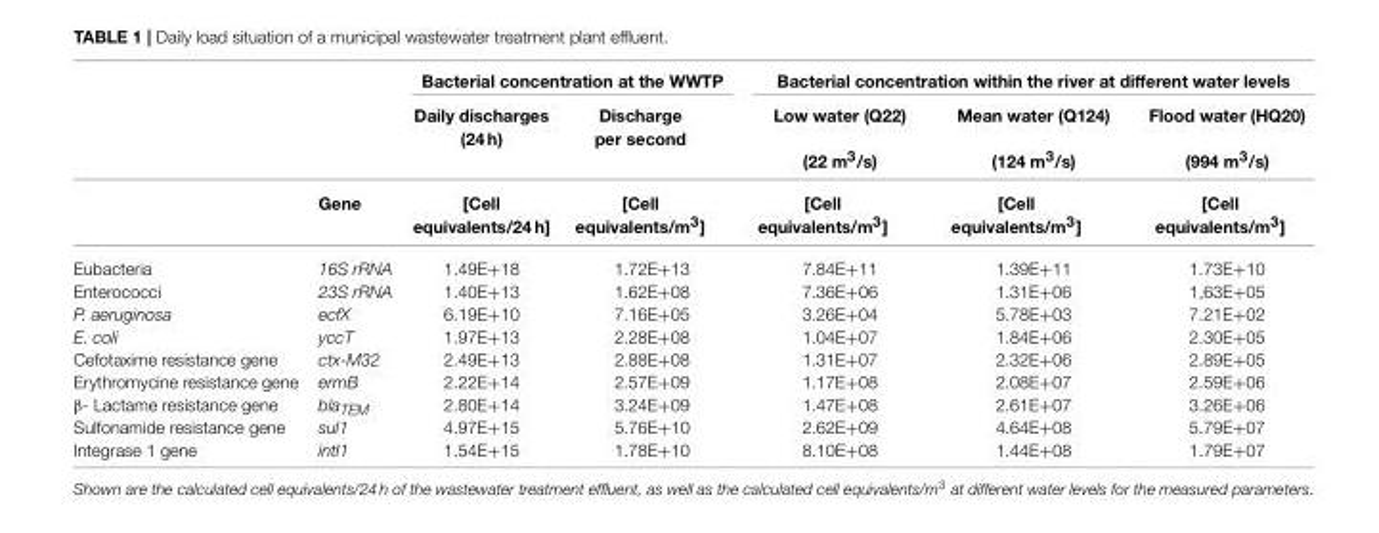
<table><thead><tr><td rowspan="3"></td><td rowspan="3"></td><td colspan="2">Bacterial concentration at the WWTP</td><td colspan="3">Bacterial concentration within the river at different water levels</td></tr><tr><td rowspan="2">Daily discharges (24 h)</td><td rowspan="2">Discharge per second</td><td rowspan="2">Low water (Q22) (22 m<sup>3</sup>/s)</td><td rowspan="2">Mean water (Q124) (124 m<sup>3</sup>/s)</td><td rowspan="2">Flood water (HQ20) (994 m<sup>3</sup>/s)</td></tr><tr></tr></thead><tbody><tr><td></td><td>Gene</td><td>[Cell equivalents/24 h]</td><td>[Cell equivalents/m<sup>3</sup>]</td><td>[Cell equivalents/m<sup>3</sup>]</td><td>[Cell equivalents/m<sup>3</sup>]</td><td>[Cell equivalents/m<sup>3</sup>]</td></tr><tr><td>Eubacteria</td><td>16S rRNA</td><td>1.49E+18</td><td>1.72E+13</td><td>7.84E+11</td><td>1.39E+11</td><td>1.73E+10</td></tr><tr><td>Enterococci</td><td>23S rRNA</td><td>1.40E+13</td><td>1.62E+08</td><td>7.36E+06</td><td>1.31E+06</td><td>1,63E+05</td></tr><tr><td>P. aeruginosa</td><td>ecfX</td><td>6.19E+10</td><td>7.16E+05</td><td>3.26E+04</td><td>5.78E+03</td><td>7.21E+02</td></tr><tr><td>E. coli</td><td>yccT</td><td>1.97E+13</td><td>2.28E+08</td><td>1.04E+07</td><td>1.84E+06</td><td>2.30E+05</td></tr><tr><td>Cefotaxime resistance gene</td><td>ctx-M32</td><td>2.49E+13</td><td>2.88E+08</td><td>1.31E+07</td><td>2.32E+06</td><td>2.89E+05</td></tr><tr><td>Erythromycine resistance gene</td><td>ermB</td><td>2.22E+14</td><td>2.57E+09</td><td>1.17E+08</td><td>2.08E+07</td><td>2.59E+06</td></tr><tr><td>β- Lactame resistance gene</td><td>blaTEM</td><td>2.80E+14</td><td>3.24E+09</td><td>1.47E+08</td><td>2.61E+07</td><td>3.26E+06</td></tr><tr><td>Sulfonamide resistance gene</td><td>sul1</td><td>4.97E+15</td><td>5.76E+10</td><td>2.62E+09</td><td>4.64E+08</td><td>5.79E+07</td></tr><tr><td>Integrase 1 gene</td><td>intI1</td><td>1.54E+15</td><td>1.78E+10</td><td>8.10E+08</td><td>1.44E+08</td><td>1.79E+07</td></tr></tbody></table>